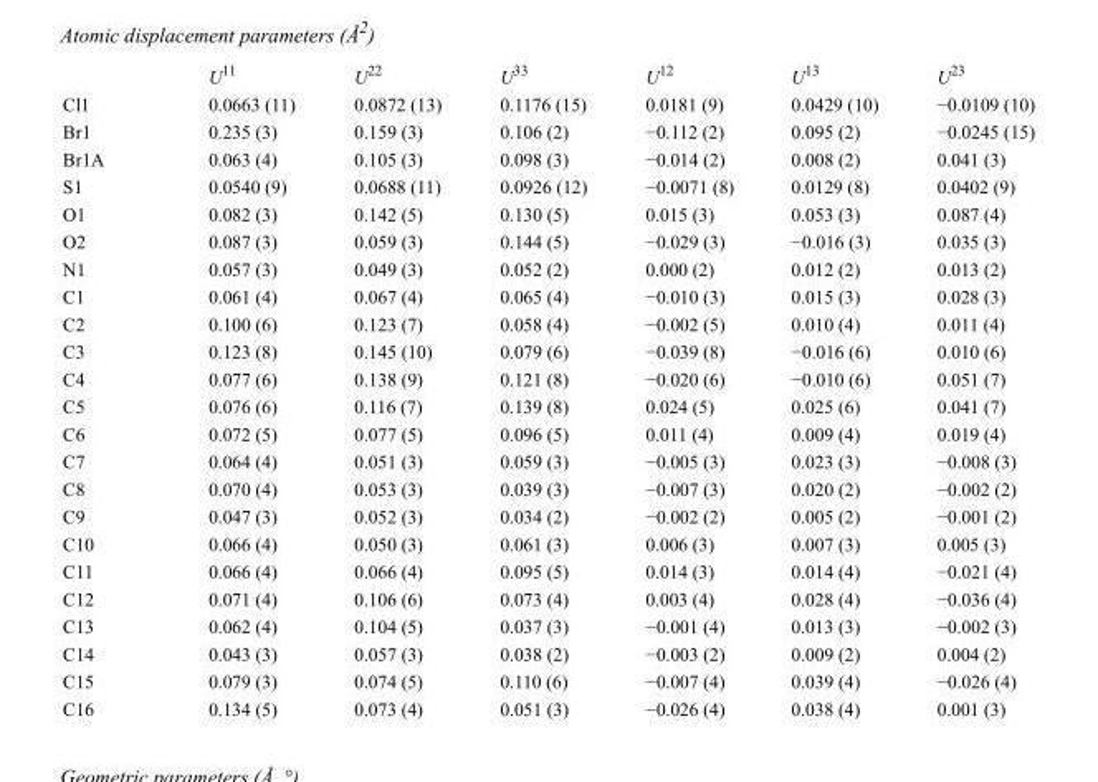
<table><thead><tr><td></td><td>U<sup>11</sup></td><td>U<sup>22</sup></td><td>U<sup>33</sup></td><td>U<sup>12</sup></td><td>U<sup>13</sup></td><td>U<sup>23</sup></td></tr></thead><tbody><tr><td>Cl1</td><td>0.0663 (11)</td><td>0.0872 (13)</td><td>0.1176 (15)</td><td>0.0181 (9)</td><td>0.0429 (10)</td><td>−0.0109 (10)</td></tr><tr><td>Br1</td><td>0.235 (3)</td><td>0.159 (3)</td><td>0.106 (2)</td><td>−0.112 (2)</td><td>0.095 (2)</td><td>−0.0245 (15)</td></tr><tr><td>Br1A</td><td>0.063 (4)</td><td>0.105 (3)</td><td>0.098 (3)</td><td>−0.014 (2)</td><td>0.008 (2)</td><td>0.041 (3)</td></tr><tr><td>S1</td><td>0.0540 (9)</td><td>0.0688 (11)</td><td>0.0926 (12)</td><td>−0.0071 (8)</td><td>0.0129 (8)</td><td>0.0402 (9)</td></tr><tr><td>O1</td><td>0.082 (3)</td><td>0.142 (5)</td><td>0.130 (5)</td><td>0.015 (3)</td><td>0.053 (3)</td><td>0.087 (4)</td></tr><tr><td>O2</td><td>0.087 (3)</td><td>0.059 (3)</td><td>0.144 (5)</td><td>−0.029 (3)</td><td>−0.016 (3)</td><td>0.035 (3)</td></tr><tr><td>N1</td><td>0.057 (3)</td><td>0.049 (3)</td><td>0.052 (2)</td><td>0.000 (2)</td><td>0.012 (2)</td><td>0.013 (2)</td></tr><tr><td>C1</td><td>0.061 (4)</td><td>0.067 (4)</td><td>0.065 (4)</td><td>−0.010 (3)</td><td>0.015 (3)</td><td>0.028 (3)</td></tr><tr><td>C2</td><td>0.100 (6)</td><td>0.123 (7)</td><td>0.058 (4)</td><td>−0.002 (5)</td><td>0.010 (4)</td><td>0.011 (4)</td></tr><tr><td>C3</td><td>0.123 (8)</td><td>0.145 (10)</td><td>0.079 (6)</td><td>−0.039 (8)</td><td>−0.016 (6)</td><td>0.010 (6)</td></tr><tr><td>C4</td><td>0.077 (6)</td><td>0.138 (9)</td><td>0.121 (8)</td><td>−0.020 (6)</td><td>−0.010 (6)</td><td>0.051 (7)</td></tr><tr><td>C5</td><td>0.076 (6)</td><td>0.116 (7)</td><td>0.139 (8)</td><td>0.024 (5)</td><td>0.025 (6)</td><td>0.041 (7)</td></tr><tr><td>C6</td><td>0.072 (5)</td><td>0.077 (5)</td><td>0.096 (5)</td><td>0.011 (4)</td><td>0.009 (4)</td><td>0.019 (4)</td></tr><tr><td>C7</td><td>0.064 (4)</td><td>0.051 (3)</td><td>0.059 (3)</td><td>−0.005 (3)</td><td>0.023 (3)</td><td>−0.008 (3)</td></tr><tr><td>C8</td><td>0.070 (4)</td><td>0.053 (3)</td><td>0.039 (3)</td><td>−0.007 (3)</td><td>0.020 (2)</td><td>−0.002 (2)</td></tr><tr><td>C9</td><td>0.047 (3)</td><td>0.052 (3)</td><td>0.034 (2)</td><td>−0.002 (2)</td><td>0.005 (2)</td><td>−0.001 (2)</td></tr><tr><td>C10</td><td>0.066 (4)</td><td>0.050 (3)</td><td>0.061 (3)</td><td>0.006 (3)</td><td>0.007 (3)</td><td>0.005 (3)</td></tr><tr><td>C11</td><td>0.066 (4)</td><td>0.066 (4)</td><td>0.095 (5)</td><td>0.014 (3)</td><td>0.014 (4)</td><td>−0.021 (4)</td></tr><tr><td>C12</td><td>0.071 (4)</td><td>0.106 (6)</td><td>0.073 (4)</td><td>0.003 (4)</td><td>0.028 (4)</td><td>−0.036 (4)</td></tr><tr><td>C13</td><td>0.062 (4)</td><td>0.104 (5)</td><td>0.037 (3)</td><td>−0.001 (4)</td><td>0.013 (3)</td><td>−0.002 (3)</td></tr><tr><td>C14</td><td>0.043 (3)</td><td>0.057 (3)</td><td>0.038 (2)</td><td>−0.003 (2)</td><td>0.009 (2)</td><td>0.004 (2)</td></tr><tr><td>C15</td><td>0.079 (3)</td><td>0.074 (5)</td><td>0.110 (6)</td><td>−0.007 (4)</td><td>0.039 (4)</td><td>−0.026 (4)</td></tr><tr><td>C16</td><td>0.134 (5)</td><td>0.073 (4)</td><td>0.051 (3)</td><td>−0.026 (4)</td><td>0.038 (4)</td><td>0.001 (3)</td></tr></tbody></table>